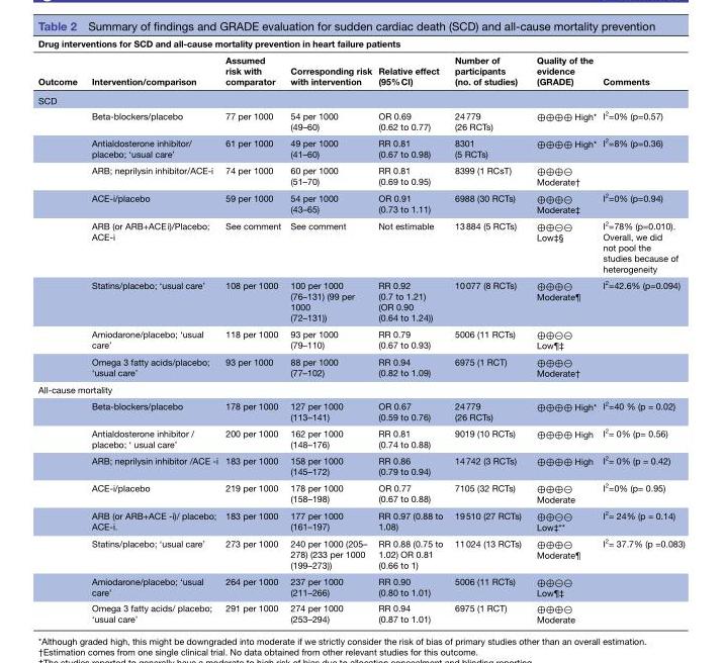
<table><thead><tr><td colspan="8">Drug interventions for SCD and all-cause mortality prevention in heart failure patients</td></tr><tr><td>Outcome</td><td>Intervention/comparison</td><td>Assumed risk with comparator</td><td>Corresponding risk with intervention</td><td>Relative effect (95% CI)</td><td>Number of participants (no. of studies)</td><td>Quality of the evidence (GRADE)</td><td>Comments</td></tr></thead><tbody><tr><td colspan="8">SCD</td></tr><tr><td></td><td>Beta-blockers/placebo</td><td>77 per 1000</td><td>54 per 1000 (49–60)</td><td>OR 0.69 (0.62 to 0.77)</td><td>24 779 (26 RCTs)</td><td>⊕⊕⊕⊕ High*</td><td>I<sup>2</sup>=0% (p=0.57)</td></tr><tr><td></td><td>Antialdosterone inhibitor/ placebo; ‘usual care’</td><td>61 per 1000</td><td>49 per 1000 (41–60)</td><td>RR 0.81 (0.67 to 0.98)</td><td>8301 (5 RCTs)</td><td>⊕⊕⊕⊕ High*</td><td>I<sup>2</sup>=8% (p=0.36)</td></tr><tr><td></td><td>ARB; neprilysin inhibitor/ACE-i</td><td>74 per 1000</td><td>60 per 1000 (51–70)</td><td>RR 0.81 (0.69 to 0.95)</td><td>8399 (1 RCsT)</td><td>⊕⊕⊕⊝ Moderate†</td><td></td></tr><tr><td></td><td>ACE-i/placebo</td><td>59 per 1000</td><td>54 per 1000 (43–65)</td><td>OR 0.91 (0.73 to 1.11)</td><td>6988 (30 RCTs)</td><td>⊕⊕⊕⊝ Moderate‡</td><td>I<sup>2</sup>=0% (p=0.94)</td></tr><tr><td></td><td>ARB (or ARB+ACE i)/Placebo; ACE-i</td><td>See comment</td><td>See comment</td><td>Not estimable</td><td>13 884 (5 RCTs)</td><td>⊕⊕⊝⊝ Low‡§</td><td>I<sup>2</sup>=78% (p=0.010). Overall, we did not pool the studies because of heterogeneity</td></tr><tr><td></td><td>Statins/placebo; ‘usual care’</td><td>108 per 1000</td><td>100 per 1000 (76–131) (99 per 1000 (72–131))</td><td>RR 0.92 (0.7 to 1.21) (OR 0.90 (0.64 to 1.24))</td><td>10 077 (8 RCTs)</td><td>⊕⊕⊕⊝ Moderate¶</td><td>I<sup>2</sup>=42.6% (p=0.094)</td></tr><tr><td></td><td>Amiodarone/placebo; ‘usual care’</td><td>118 per 1000</td><td>93 per 1000 (79–110)</td><td>RR 0.79 (0.67 to 0.93)</td><td>5006 (11 RCTs)</td><td>⊕⊕⊝⊝ Low¶‡</td><td></td></tr><tr><td></td><td>Omega 3 fatty acids/placebo; ‘usual care’</td><td>93 per 1000</td><td>88 per 1000 (77–102)</td><td>RR 0.94 (0.82 to 1.09)</td><td>6975 (1 RCT)</td><td>⊕⊕⊕⊝ Moderate†</td><td></td></tr><tr><td colspan="8">All-cause mortality</td></tr><tr><td></td><td>Beta-blockers/placebo</td><td>178 per 1000</td><td>127 per 1000 (113–141)</td><td>OR 0.67 (0.59 to 0.76)</td><td>24 779 (26 RCTs)</td><td>⊕⊕⊕⊕ High*</td><td>I<sup>2</sup>=40 % (p = 0.02)</td></tr><tr><td></td><td>Antialdosterone inhibitor / placebo; ‘ usual care’</td><td>200 per 1000</td><td>162 per 1000 (148–176)</td><td>RR 0.81 (0.74 to 0.88)</td><td>9019 (10 RCTs)</td><td>⊕⊕⊕⊕ High</td><td>I<sup>2</sup>= 0% (p= 0.56)</td></tr><tr><td></td><td>ARB; neprilysin inhibitor /ACE -i</td><td>183 per 1000</td><td>158 per 1000 (145–172)</td><td>RR 0.86 (0.79 to 0.94)</td><td>14 742 (3 RCTs)</td><td>⊕⊕⊕⊕ High</td><td>I<sup>2</sup>= 0% (p = 0.42)</td></tr><tr><td></td><td>ACE-i/placebo</td><td>219 per 1000</td><td>178 per 1000 (158–198)</td><td>OR 0.77 (0.67 to 0.88)</td><td>7105 (32 RCTs)</td><td>⊕⊕⊕⊝ Moderate</td><td>I<sup>2</sup>=0% (p= 0.95)</td></tr><tr><td></td><td>ARB (or ARB+ACE -i)/ placebo; ACE-i.</td><td>183 per 1000</td><td>177 per 1000 (161–197)</td><td>RR 0.97 (0.88 to 1.08)</td><td>19 510 (27 RCTs)</td><td>⊕⊕⊝⊝ Low‡**</td><td>I<sup>2</sup>= 24% (p = 0.14)</td></tr><tr><td></td><td>Statins/placebo; ‘usual care’</td><td>273 per 1000</td><td>240 per 1000 (205– 278) (233 per 1000 (199–273))</td><td>RR 0.88 (0.75 to 1.02) OR 0.81 (0.66 to 1)</td><td>11 024 (13 RCTs)</td><td>⊕⊕⊕⊝ Moderate¶</td><td>I<sup>2</sup>= 37.7% (p =0.083)</td></tr><tr><td></td><td>Amiodarone/placebo; ‘usual care’</td><td>264 per 1000</td><td>237 per 1000 (211–266)</td><td>RR 0.90 (0.80 to 1.01)</td><td>5006 (11 RCTs)</td><td>⊕⊕⊝⊝ Low¶‡</td><td></td></tr><tr><td></td><td>Omega 3 fatty acids/ placebo; ‘usual care’</td><td>291 per 1000</td><td>274 per 1000 (253–294)</td><td>RR 0.94 (0.87 to 1.01)</td><td>6975 (1 RCT)</td><td>⊕⊕⊕⊝ Moderate</td><td></td></tr></tbody></table>